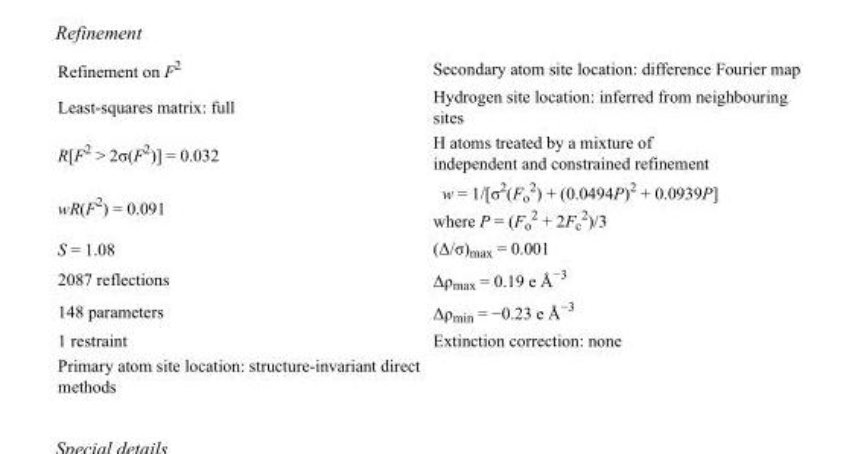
<table><tbody><tr><td>Refinement on F<sup>2</sup></td><td>Secondary atom site location: difference Fourier map</td></tr><tr><td>Least-squares matrix: full</td><td>Hydrogen site location: inferred from neighbouring sites</td></tr><tr><td>R[F<sup>2</sup> &gt; 2σ(F<sup>2</sup>)] = 0.032</td><td>H atoms treated by a mixture of independent and constrained refinement</td></tr><tr><td>wR(F<sup>2</sup>) = 0.091</td><td>w = 1/[σ<sup>2</sup>(F<sub>o</sub> <sup>2</sup>) + (0.0494P)<sup>2</sup> + 0.0939P] where P = (F<sub>o</sub> <sup>2</sup> + 2F<sub>c</sub> <sup>2</sup>)/3</td></tr><tr><td>S = 1.08</td><td>(Δ/σ)<sub>max</sub> = 0.001</td></tr><tr><td>2087 reflections</td><td>Δρ<sub>max</sub> = 0.19 e Å<sup>−3</sup></td></tr><tr><td>148 parameters</td><td>Δρ<sub>min</sub> = −0.23 e Å<sup>−3</sup></td></tr><tr><td>1 restraint</td><td>Extinction correction: none</td></tr><tr><td>Primary atom site location: structure-invariant direct methods</td><td></td></tr></tbody></table>